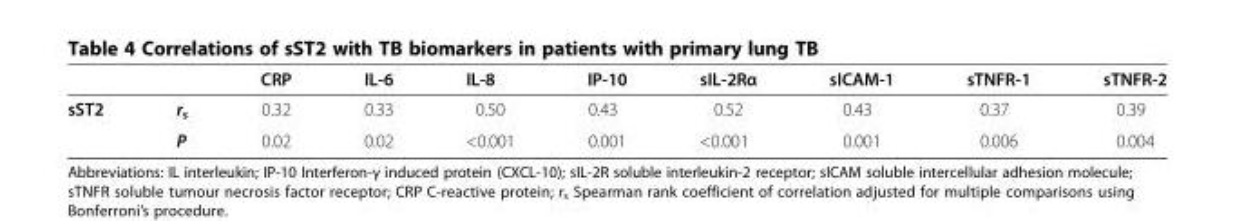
<table><thead><tr><td></td><td></td><td>CRP</td><td>IL-6</td><td>IL-8</td><td>IP-10</td><td>sIL-2Rα</td><td>sICAM-1</td><td>sTNFR-1</td><td>sTNFR-2</td></tr></thead><tbody><tr><td rowspan="2">sST2</td><td>r<sub>s</sub></td><td>0.32</td><td>0.33</td><td>0.50</td><td>0.43</td><td>0.52</td><td>0.43</td><td>0.37</td><td>0.39</td></tr><tr><td>P</td><td>0.02</td><td>0.02</td><td>&lt;0.001</td><td>0.001</td><td>&lt;0.001</td><td>0.001</td><td>0.006</td><td>0.004</td></tr></tbody></table>